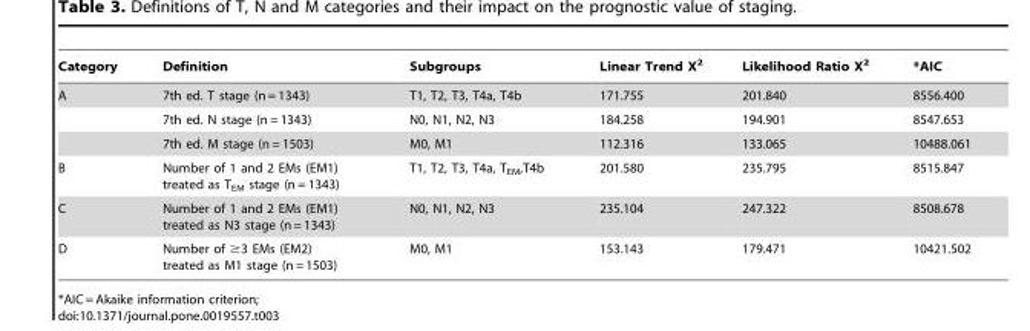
<table><thead><tr><td>Category</td><td>Definition</td><td>Subgroups</td><td>Linear Trend X<sup>2</sup></td><td>Likelihood Ratio X<sup>2</sup></td><td>*AIC</td></tr></thead><tbody><tr><td rowspan="3">A</td><td>7th ed. T stage (n = 1343)</td><td>T1, T2, T3, T4a, T4b</td><td>171.755</td><td>201.840</td><td>8556.400</td></tr><tr><td>7th ed. N stage (n = 1343)</td><td>N0, N1, N2, N3</td><td>184.258</td><td>194.901</td><td>8547.653</td></tr><tr><td>7th ed. M stage (n = 1503)</td><td>M0, M1</td><td>112.316</td><td>133.065</td><td>10488.061</td></tr><tr><td>B</td><td>Number of 1 and 2 EMs (EM1) treated as T<sub>EM</sub> stage (n = 1343)</td><td>T1, T2, T3, T4a, T<sub>EM</sub>,T4b</td><td>201.580</td><td>235.795</td><td>8515.847</td></tr><tr><td>C</td><td>Number of 1 and 2 EMs (EM1) treated as N3 stage (n = 1343)</td><td>N0, N1, N2, N3</td><td>235.104</td><td>247.322</td><td>8508.678</td></tr><tr><td>D</td><td>Number of ≥3 EMs (EM2) treated as M1 stage (n = 1503)</td><td>M0, M1</td><td>153.143</td><td>179.471</td><td>10421.502</td></tr></tbody></table>